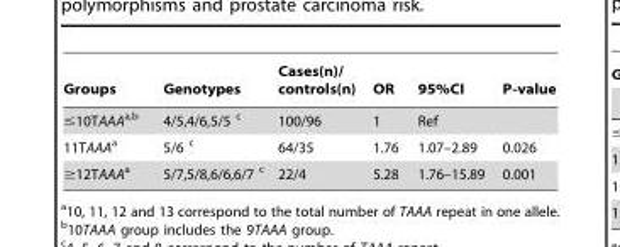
<table><thead><tr><td>Groups</td><td>Genotypes</td><td>Cases(n)/ controls(n)</td><td>OR</td><td>95%CI</td><td>P-value</td></tr></thead><tbody><tr><td>≤10TAAAa,b</td><td>4/5,4/6,5/5 c</td><td>100/96</td><td>1</td><td>Ref</td><td></td></tr><tr><td>11TAAAa</td><td>5/6 c</td><td>64/35</td><td>1.76</td><td>1.07–2.89</td><td>0.026</td></tr><tr><td>≥12TAAAa</td><td>5/7,5/8,6/6,6/7 c</td><td>22/4</td><td>5.28</td><td>1.76–15.89</td><td>0.001</td></tr></tbody></table>